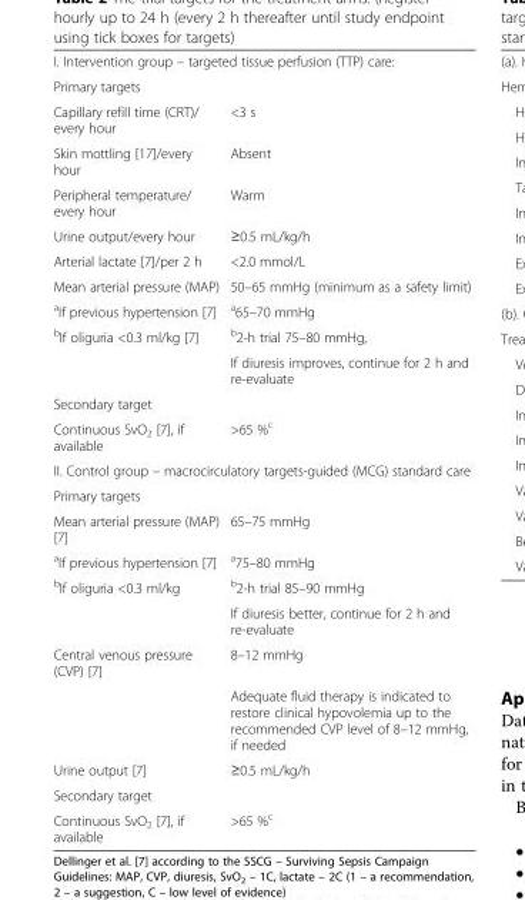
<table><tbody><tr><td colspan="2">I. Intervention group – targeted tissue perfusion (TTP) care:</td></tr><tr><td colspan="2">Primary targets</td></tr><tr><td>Capillary refill time (CRT)/ every hour</td><td>&lt;3 s</td></tr><tr><td>Skin mottling [17]/every hour</td><td>Absent</td></tr><tr><td>Peripheral temperature/ every hour</td><td>Warm</td></tr><tr><td>Urine output/every hour</td><td>≥0.5 mL/kg/h</td></tr><tr><td>Arterial lactate [7]/per 2 h</td><td>&lt;2.0 mmol/L</td></tr><tr><td>Mean arterial pressure (MAP)</td><td>50–65 mmHg (minimum as a safety limit)</td></tr><tr><td><sup>a</sup>If previous hypertension [7]</td><td><sup>a</sup>65–70 mmHg</td></tr><tr><td rowspan="2"><sup>b</sup>If oliguria &lt;0.3 ml/kg [7]</td><td><sup>b</sup>2-h trial 75–80 mmHg,</td></tr><tr><td>If diuresis improves, continue for 2 h and re-evaluate</td></tr><tr><td colspan="2">Secondary target</td></tr><tr><td>Continuous SvO<sub>2</sub> [7], if available</td><td>&gt;65 %<sup>c</sup></td></tr><tr><td colspan="2">II. Control group – macrocirculatory targets-guided (MCG) standard care</td></tr><tr><td colspan="2">Primary targets</td></tr><tr><td>Mean arterial pressure (MAP) [7]</td><td>65–75 mmHg</td></tr><tr><td><sup>a</sup>If previous hypertension [7]</td><td><sup>a</sup>75–80 mmHg</td></tr><tr><td rowspan="2"><sup>b</sup>If oliguria &lt;0.3 ml/kg</td><td><sup>b</sup>2-h trial 85–90 mmHg</td></tr><tr><td>If diuresis better, continue for 2 h and re-evaluate</td></tr><tr><td rowspan="2">Central venous pressure (CVP) [7]</td><td>8–12 mmHg</td></tr><tr><td>Adequate fluid therapy is indicated to restore clinical hypovolemia up to the recommended CVP level of 8–12 mmHg, if needed</td></tr><tr><td>Urine output [7]</td><td>≥0.5 mL/kg/h</td></tr><tr><td colspan="2">Secondary target</td></tr><tr><td>Continuous SvO<sub>2</sub> [7], if available</td><td>&gt;65 %<sup>c</sup></td></tr></tbody></table>